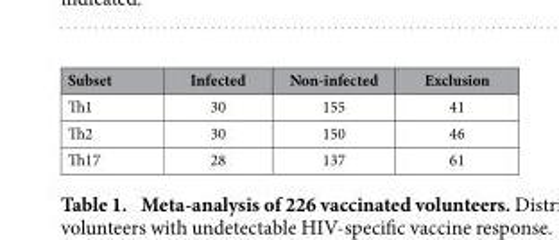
<table><thead><tr><td>Subset</td><td>Infected</td><td>Non-infected</td><td>Exclusion</td></tr></thead><tbody><tr><td>Th1</td><td>30</td><td>155</td><td>41</td></tr><tr><td>Th2</td><td>30</td><td>150</td><td>46</td></tr><tr><td>Th17</td><td>28</td><td>137</td><td>61</td></tr></tbody></table>